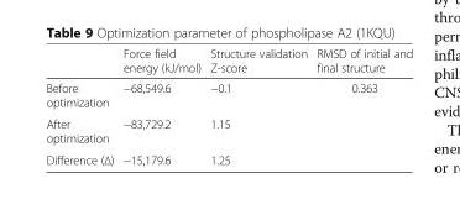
<table><thead><tr><td></td><td>Force field energy (kJ/mol)</td><td>Structure validation Z-score</td><td>RMSD of initial and final structure</td></tr></thead><tbody><tr><td>Before optimization</td><td>−68,549.6</td><td>−0.1</td><td rowspan="3">0.363</td></tr><tr><td>After optimization</td><td>−83,729.2</td><td>1.15</td></tr><tr><td>Difference (Δ)</td><td>−15,179.6</td><td>1.25</td></tr></tbody></table>